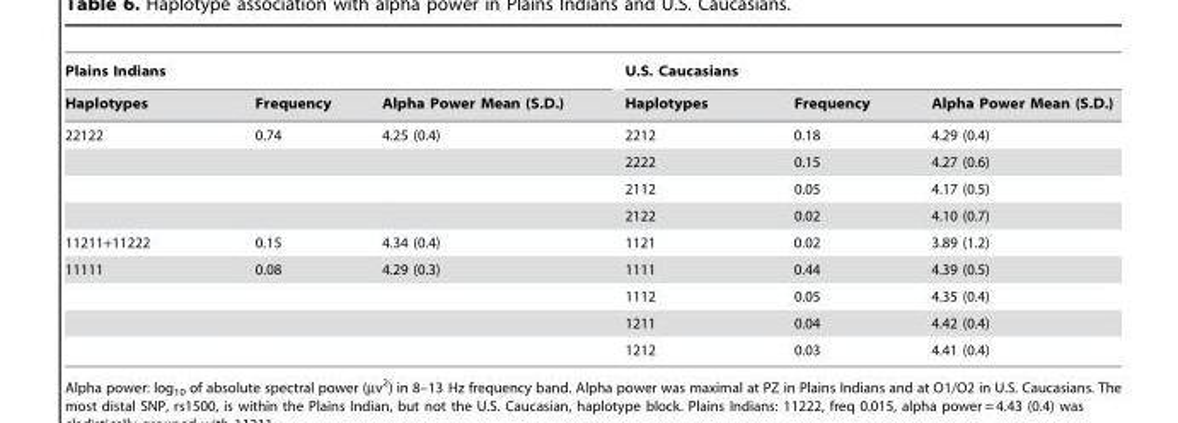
<table><thead><tr><td colspan="3">Plains Indians</td><td colspan="3">U.S. Caucasians</td></tr><tr><td>Haplotypes</td><td>Frequency</td><td>Alpha Power Mean (S.D.)</td><td>Haplotypes</td><td>Frequency</td><td>Alpha Power Mean (S.D.)</td></tr></thead><tbody><tr><td rowspan="4">22122</td><td>0.74</td><td>4.25 (0.4)</td><td>2212</td><td>0.18</td><td>4.29 (0.4)</td></tr><tr><td></td><td></td><td>2222</td><td>0.15</td><td>4.27 (0.6)</td></tr><tr><td></td><td></td><td>2112</td><td>0.05</td><td>4.17 (0.5)</td></tr><tr><td></td><td></td><td>2122</td><td>0.02</td><td>4.10 (0.7)</td></tr><tr><td>11211+11222</td><td>0.15</td><td>4.34 (0.4)</td><td>1121</td><td>0.02</td><td>3.89 (1.2)</td></tr><tr><td rowspan="4">11111</td><td>0.08</td><td>4.29 (0.3)</td><td>1111</td><td>0.44</td><td>4.39 (0.5)</td></tr><tr><td></td><td></td><td>1112</td><td>0.05</td><td>4.35 (0.4)</td></tr><tr><td></td><td></td><td>1211</td><td>0.04</td><td>4.42 (0.4)</td></tr><tr><td></td><td></td><td>1212</td><td>0.03</td><td>4.41 (0.4)</td></tr></tbody></table>